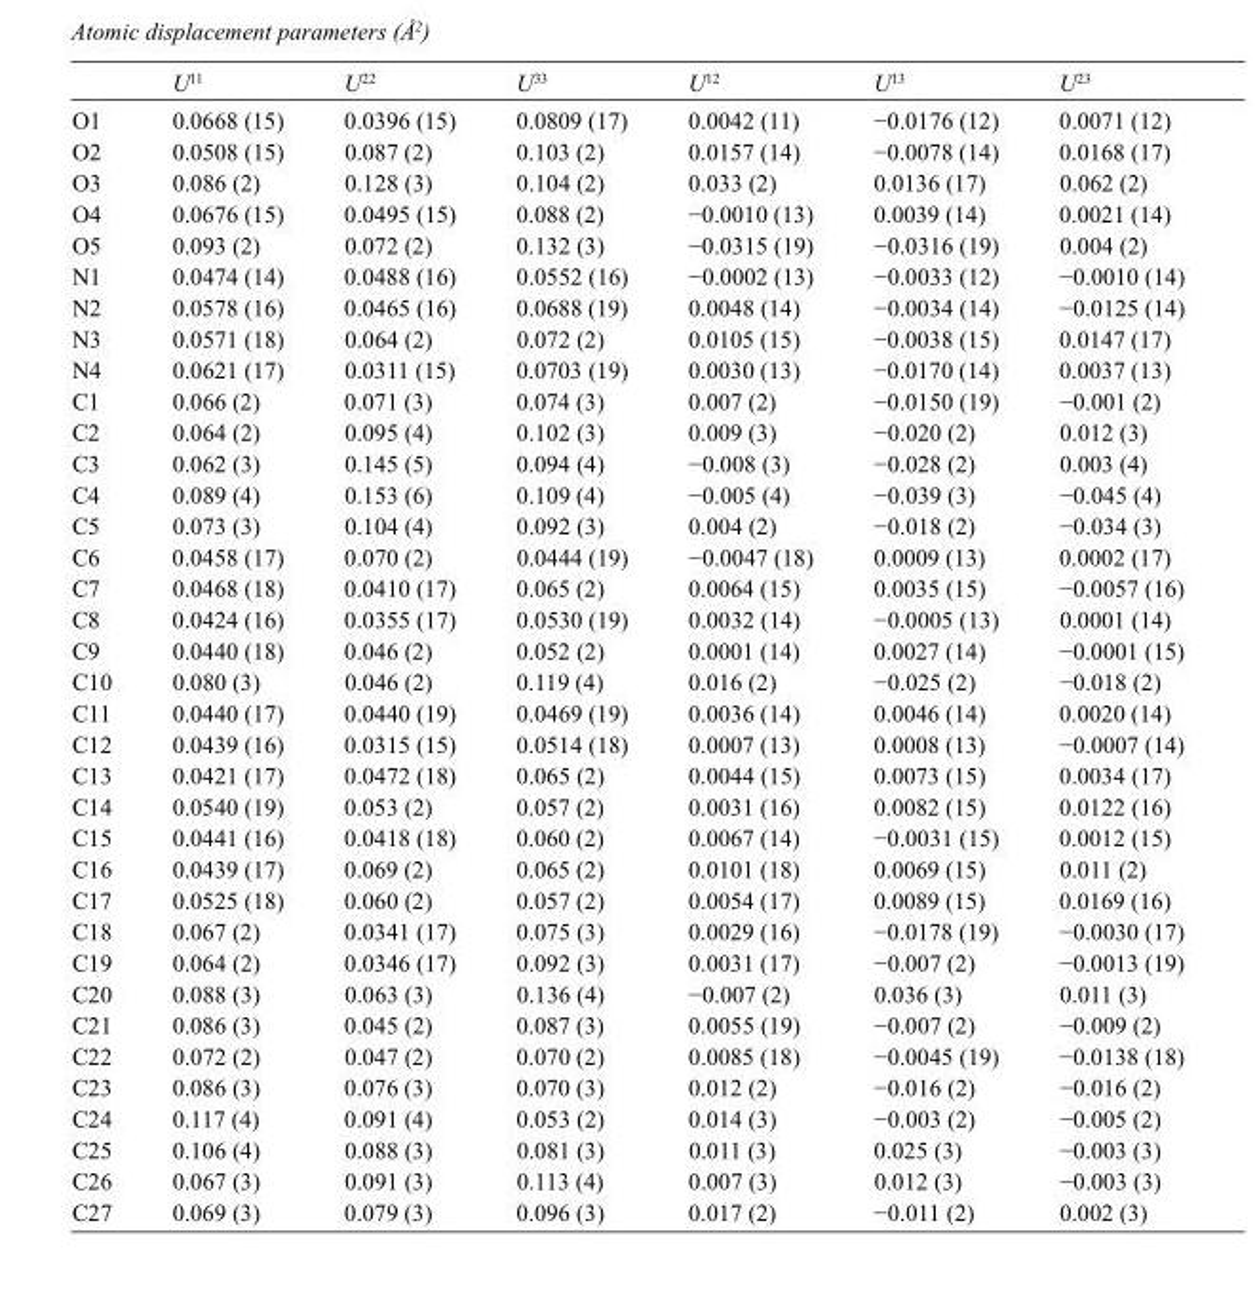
<table><thead><tr><td></td><td>U<sup>11</sup></td><td>U<sup>22</sup></td><td>U<sup>33</sup></td><td>U<sup>12</sup></td><td>U<sup>13</sup></td><td>U<sup>23</sup></td></tr></thead><tbody><tr><td>O1</td><td>0.0668 (15)</td><td>0.0396 (15)</td><td>0.0809 (17)</td><td>0.0042 (11)</td><td>−0.0176 (12)</td><td>0.0071 (12)</td></tr><tr><td>O2</td><td>0.0508 (15)</td><td>0.087 (2)</td><td>0.103 (2)</td><td>0.0157 (14)</td><td>−0.0078 (14)</td><td>0.0168 (17)</td></tr><tr><td>O3</td><td>0.086 (2)</td><td>0.128 (3)</td><td>0.104 (2)</td><td>0.033 (2)</td><td>0.0136 (17)</td><td>0.062 (2)</td></tr><tr><td>O4</td><td>0.0676 (15)</td><td>0.0495 (15)</td><td>0.088 (2)</td><td>−0.0010 (13)</td><td>0.0039 (14)</td><td>0.0021 (14)</td></tr><tr><td>O5</td><td>0.093 (2)</td><td>0.072 (2)</td><td>0.132 (3)</td><td>−0.0315 (19)</td><td>−0.0316 (19)</td><td>0.004 (2)</td></tr><tr><td>N1</td><td>0.0474 (14)</td><td>0.0488 (16)</td><td>0.0552 (16)</td><td>−0.0002 (13)</td><td>−0.0033 (12)</td><td>−0.0010 (14)</td></tr><tr><td>N2</td><td>0.0578 (16)</td><td>0.0465 (16)</td><td>0.0688 (19)</td><td>0.0048 (14)</td><td>−0.0034 (14)</td><td>−0.0125 (14)</td></tr><tr><td>N3</td><td>0.0571 (18)</td><td>0.064 (2)</td><td>0.072 (2)</td><td>0.0105 (15)</td><td>−0.0038 (15)</td><td>0.0147 (17)</td></tr><tr><td>N4</td><td>0.0621 (17)</td><td>0.0311 (15)</td><td>0.0703 (19)</td><td>0.0030 (13)</td><td>−0.0170 (14)</td><td>0.0037 (13)</td></tr><tr><td>C1</td><td>0.066 (2)</td><td>0.071 (3)</td><td>0.074 (3)</td><td>0.007 (2)</td><td>−0.0150 (19)</td><td>−0.001 (2)</td></tr><tr><td>C2</td><td>0.064 (2)</td><td>0.095 (4)</td><td>0.102 (3)</td><td>0.009 (3)</td><td>−0.020 (2)</td><td>0.012 (3)</td></tr><tr><td>C3</td><td>0.062 (3)</td><td>0.145 (5)</td><td>0.094 (4)</td><td>−0.008 (3)</td><td>−0.028 (2)</td><td>0.003 (4)</td></tr><tr><td>C4</td><td>0.089 (4)</td><td>0.153 (6)</td><td>0.109 (4)</td><td>−0.005 (4)</td><td>−0.039 (3)</td><td>−0.045 (4)</td></tr><tr><td>C5</td><td>0.073 (3)</td><td>0.104 (4)</td><td>0.092 (3)</td><td>0.004 (2)</td><td>−0.018 (2)</td><td>−0.034 (3)</td></tr><tr><td>C6</td><td>0.0458 (17)</td><td>0.070 (2)</td><td>0.0444 (19)</td><td>−0.0047 (18)</td><td>0.0009 (13)</td><td>0.0002 (17)</td></tr><tr><td>C7</td><td>0.0468 (18)</td><td>0.0410 (17)</td><td>0.065 (2)</td><td>0.0064 (15)</td><td>0.0035 (15)</td><td>−0.0057 (16)</td></tr><tr><td>C8</td><td>0.0424 (16)</td><td>0.0355 (17)</td><td>0.0530 (19)</td><td>0.0032 (14)</td><td>−0.0005 (13)</td><td>0.0001 (14)</td></tr><tr><td>C9</td><td>0.0440 (18)</td><td>0.046 (2)</td><td>0.052 (2)</td><td>0.0001 (14)</td><td>0.0027 (14)</td><td>−0.0001 (15)</td></tr><tr><td>C10</td><td>0.080 (3)</td><td>0.046 (2)</td><td>0.119 (4)</td><td>0.016 (2)</td><td>−0.025 (2)</td><td>−0.018 (2)</td></tr><tr><td>C11</td><td>0.0440 (17)</td><td>0.0440 (19)</td><td>0.0469 (19)</td><td>0.0036 (14)</td><td>0.0046 (14)</td><td>0.0020 (14)</td></tr><tr><td>C12</td><td>0.0439 (16)</td><td>0.0315 (15)</td><td>0.0514 (18)</td><td>0.0007 (13)</td><td>0.0008 (13)</td><td>−0.0007 (14)</td></tr><tr><td>C13</td><td>0.0421 (17)</td><td>0.0472 (18)</td><td>0.065 (2)</td><td>0.0044 (15)</td><td>0.0073 (15)</td><td>0.0034 (17)</td></tr><tr><td>C14</td><td>0.0540 (19)</td><td>0.053 (2)</td><td>0.057 (2)</td><td>0.0031 (16)</td><td>0.0082 (15)</td><td>0.0122 (16)</td></tr><tr><td>C15</td><td>0.0441 (16)</td><td>0.0418 (18)</td><td>0.060 (2)</td><td>0.0067 (14)</td><td>−0.0031 (15)</td><td>0.0012 (15)</td></tr><tr><td>C16</td><td>0.0439 (17)</td><td>0.069 (2)</td><td>0.065 (2)</td><td>0.0101 (18)</td><td>0.0069 (15)</td><td>0.011 (2)</td></tr><tr><td>C17</td><td>0.0525 (18)</td><td>0.060 (2)</td><td>0.057 (2)</td><td>0.0054 (17)</td><td>0.0089 (15)</td><td>0.0169 (16)</td></tr><tr><td>C18</td><td>0.067 (2)</td><td>0.0341 (17)</td><td>0.075 (3)</td><td>0.0029 (16)</td><td>−0.0178 (19)</td><td>−0.0030 (17)</td></tr><tr><td>C19</td><td>0.064 (2)</td><td>0.0346 (17)</td><td>0.092 (3)</td><td>0.0031 (17)</td><td>−0.007 (2)</td><td>−0.0013 (19)</td></tr><tr><td>C20</td><td>0.088 (3)</td><td>0.063 (3)</td><td>0.136 (4)</td><td>−0.007 (2)</td><td>0.036 (3)</td><td>0.011 (3)</td></tr><tr><td>C21</td><td>0.086 (3)</td><td>0.045 (2)</td><td>0.087 (3)</td><td>0.0055 (19)</td><td>−0.007 (2)</td><td>−0.009 (2)</td></tr><tr><td>C22</td><td>0.072 (2)</td><td>0.047 (2)</td><td>0.070 (2)</td><td>0.0085 (18)</td><td>−0.0045 (19)</td><td>−0.0138 (18)</td></tr><tr><td>C23</td><td>0.086 (3)</td><td>0.076 (3)</td><td>0.070 (3)</td><td>0.012 (2)</td><td>−0.016 (2)</td><td>−0.016 (2)</td></tr><tr><td>C24</td><td>0.117 (4)</td><td>0.091 (4)</td><td>0.053 (2)</td><td>0.014 (3)</td><td>−0.003 (2)</td><td>−0.005 (2)</td></tr><tr><td>C25</td><td>0.106 (4)</td><td>0.088 (3)</td><td>0.081 (3)</td><td>0.011 (3)</td><td>0.025 (3)</td><td>−0.003 (3)</td></tr><tr><td>C26</td><td>0.067 (3)</td><td>0.091 (3)</td><td>0.113 (4)</td><td>0.007 (3)</td><td>0.012 (3)</td><td>−0.003 (3)</td></tr><tr><td>C27</td><td>0.069 (3)</td><td>0.079 (3)</td><td>0.096 (3)</td><td>0.017 (2)</td><td>−0.011 (2)</td><td>0.002 (3)</td></tr></tbody></table>